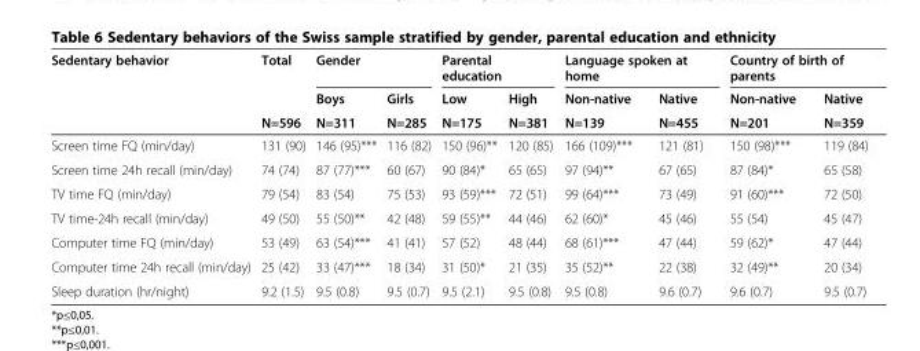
<table><thead><tr><td rowspan="2">Sedentary behavior</td><td rowspan="2">Total</td><td rowspan="2">Gender Boys</td><td rowspan="2">Girls</td><td colspan="2">Parental education</td><td colspan="2">Language spoken at home</td><td colspan="2">Country of birth of parents</td></tr><tr><td>Low</td><td>High</td><td>Non-native</td><td>Native</td><td>Non-native</td><td>Native</td></tr></thead><tbody><tr><td></td><td>N=596</td><td>N=311</td><td>N=285</td><td>N=175</td><td>N=381</td><td>N=139</td><td>N=455</td><td>N=201</td><td>N=359</td></tr><tr><td>Screen time FQ (min/day)</td><td>131 (90)</td><td>146 (95)***</td><td>116 (82)</td><td>150 (96)**</td><td>120 (85)</td><td>166 (109)***</td><td>121 (81)</td><td>150 (98)***</td><td>119 (84)</td></tr><tr><td>Screen time 24h recall (min/day)</td><td>74 (74)</td><td>87 (77)***</td><td>60 (67)</td><td>90 (84)*</td><td>65 (65)</td><td>97 (94)**</td><td>67 (65)</td><td>87 (84)*</td><td>65 (58)</td></tr><tr><td>TV time FQ (min/day)</td><td>79 (54)</td><td>83 (54)</td><td>75 (53)</td><td>93 (59)***</td><td>72 (51)</td><td>99 (64)***</td><td>73 (49)</td><td>91 (60)***</td><td>72 (50)</td></tr><tr><td>TV time-24h recall (min/day)</td><td>49 (50)</td><td>55 (50)**</td><td>42 (48)</td><td>59 (55)**</td><td>44 (46)</td><td>62 (60)*</td><td>45 (46)</td><td>55 (54)</td><td>45 (47)</td></tr><tr><td>Computer time FQ (min/day)</td><td>53 (49)</td><td>63 (54)***</td><td>41 (41)</td><td>57 (52)</td><td>48 (44)</td><td>68 (61)***</td><td>47 (44)</td><td>59 (62)*</td><td>47 (44)</td></tr><tr><td>Computer time 24h recall (min/day)</td><td>25 (42)</td><td>33 (47)***</td><td>18 (34)</td><td>31 (50)*</td><td>21 (35)</td><td>35 (52)**</td><td>22 (38)</td><td>32 (49)**</td><td>20 (34)</td></tr><tr><td>Sleep duration (hr/night)</td><td>9.2 (1.5)</td><td>9.5 (0.8)</td><td>9.5 (0.7)</td><td>9.5 (2.1)</td><td>9.5 (0.8)</td><td>9.5 (0.8)</td><td>9.6 (0.7)</td><td>9.6 (0.7)</td><td>9.5 (0.7)</td></tr></tbody></table>